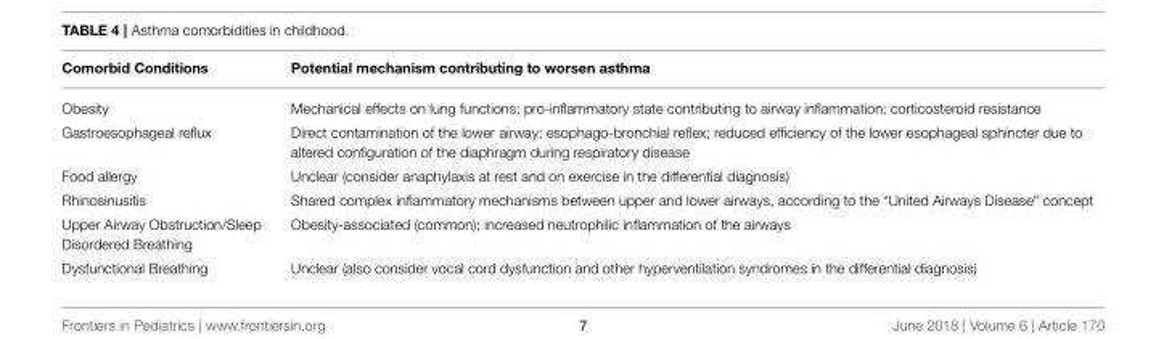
<table><thead><tr><td>Comorbid Conditions</td><td>Potential mechanism contributing to worsen asthma</td></tr></thead><tbody><tr><td>Obesity</td><td>Mechanical effects on lung functions; pro-inflammatory state contributing to airway inflammation; corticosteroid resistance</td></tr><tr><td>Gastroesophageal reflux</td><td>Direct contamination of the lower airway; esophago-bronchial reflex; reduced efficiency of the lower esophageal sphincter due to altered configuration of the diaphragm during respiratory disease</td></tr><tr><td>Food allergy</td><td>Unclear (consider anaphylaxis at rest and on exercise in the differential diagnosis)</td></tr><tr><td>Rhinosinusitis</td><td>Shared complex inflammatory mechanisms between upper and lower airways, according to the “United Airways Disease” concept</td></tr><tr><td>Upper Airway Obstruction/Sleep Disordered Breathing</td><td>Obesity-associated (common); increased neutrophilic inflammation of the airways</td></tr><tr><td>Dysfunctional Breathing</td><td>Unclear (also consider vocal cord dysfunction and other hyperventilation syndromes in the differential diagnosis)</td></tr></tbody></table>